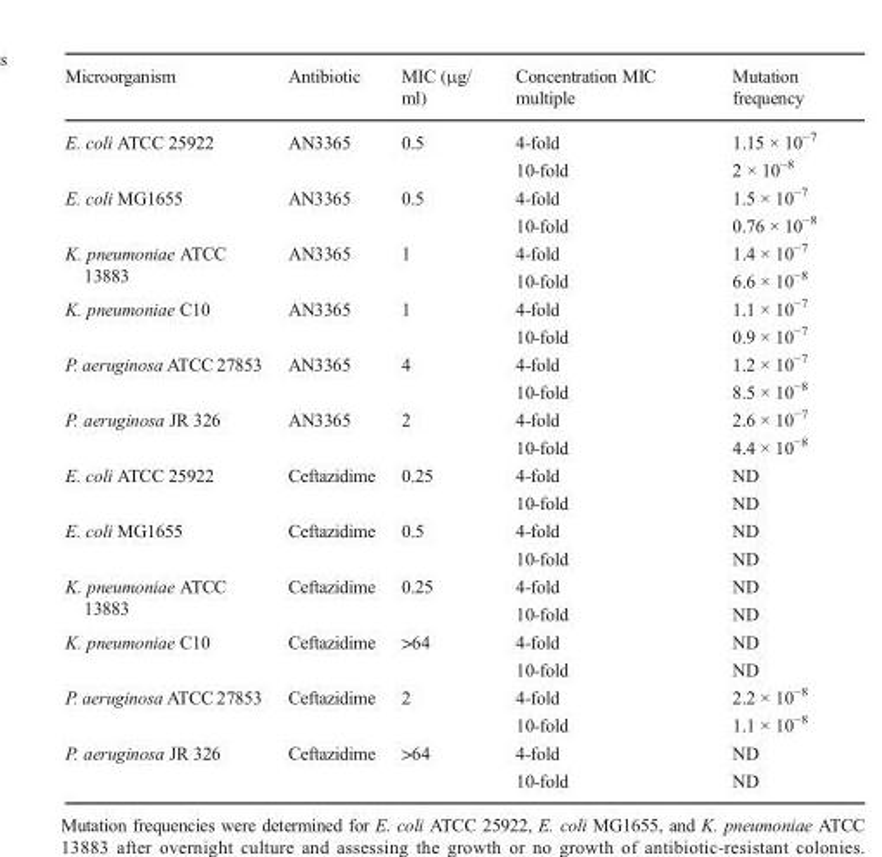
<table><thead><tr><td>Microorganism</td><td>Antibiotic</td><td>MIC (μg/ ml)</td><td>Concentration MIC multiple</td><td>Mutation frequency</td></tr></thead><tbody><tr><td rowspan="2">E. coli ATCC 25922</td><td rowspan="2">AN3365</td><td rowspan="2">0.5</td><td>4-fold</td><td>1.15 × 10<sup>−7</sup></td></tr><tr><td>10-fold</td><td>2 × 10<sup>−8</sup></td></tr><tr><td rowspan="2">E. coli MG1655</td><td rowspan="2">AN3365</td><td rowspan="2">0.5</td><td>4-fold</td><td>1.5 × 10<sup>−7</sup></td></tr><tr><td>10-fold</td><td>0.76 × 10<sup>−8</sup></td></tr><tr><td rowspan="2">K. pneumoniae ATCC 13883</td><td rowspan="2">AN3365</td><td rowspan="2">1</td><td>4-fold</td><td>1.4 × 10<sup>−7</sup></td></tr><tr><td>10-fold</td><td>6.6 × 10<sup>−8</sup></td></tr><tr><td rowspan="2">K. pneumoniae C10</td><td rowspan="2">AN3365</td><td rowspan="2">1</td><td>4-fold</td><td>1.1 × 10<sup>−7</sup></td></tr><tr><td>10-fold</td><td>0.9 × 10<sup>−7</sup></td></tr><tr><td rowspan="2">P. aeruginosa ATCC 27853</td><td rowspan="2">AN3365</td><td rowspan="2">4</td><td>4-fold</td><td>1.2 × 10<sup>−7</sup></td></tr><tr><td>10-fold</td><td>8.5 × 10<sup>−8</sup></td></tr><tr><td rowspan="2">P. aeruginosa JR 326</td><td rowspan="2">AN3365</td><td rowspan="2">2</td><td>4-fold</td><td>2.6 × 10<sup>−7</sup></td></tr><tr><td>10-fold</td><td>4.4 × 10<sup>−8</sup></td></tr><tr><td rowspan="2">E. coli ATCC 25922</td><td rowspan="2">Ceftazidime</td><td rowspan="2">0.25</td><td>4-fold</td><td>ND</td></tr><tr><td>10-fold</td><td>ND</td></tr><tr><td rowspan="2">E. coli MG1655</td><td rowspan="2">Ceftazidime</td><td rowspan="2">0.5</td><td>4-fold</td><td>ND</td></tr><tr><td>10-fold</td><td>ND</td></tr><tr><td rowspan="2">K. pneumoniae ATCC 13883</td><td rowspan="2">Ceftazidime</td><td rowspan="2">0.25</td><td>4-fold</td><td>ND</td></tr><tr><td>10-fold</td><td>ND</td></tr><tr><td rowspan="2">K. pneumoniae C10</td><td rowspan="2">Ceftazidime</td><td rowspan="2">&gt;64</td><td>4-fold</td><td>ND</td></tr><tr><td>10-fold</td><td>ND</td></tr><tr><td rowspan="2">P. aeruginosa ATCC 27853</td><td rowspan="2">Ceftazidime</td><td rowspan="2">2</td><td>4-fold</td><td>2.2 × 10<sup>−8</sup></td></tr><tr><td>10-fold</td><td>1.1 × 10<sup>−8</sup></td></tr><tr><td rowspan="2">P. aeruginosa JR 326</td><td rowspan="2">Ceftazidime</td><td rowspan="2">&gt;64</td><td>4-fold</td><td>ND</td></tr><tr><td>10-fold</td><td>ND</td></tr></tbody></table>